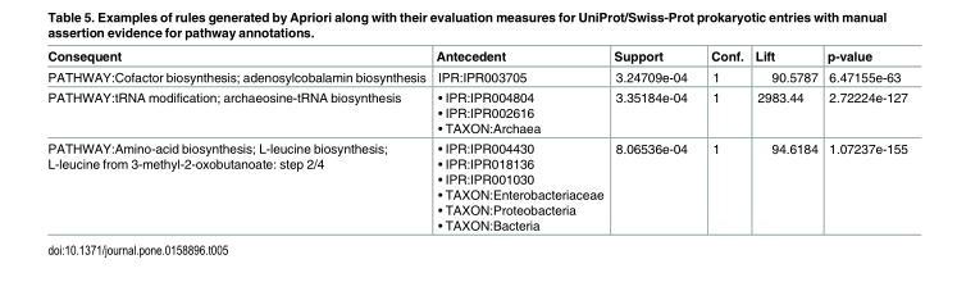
<table><thead><tr><td>Consequent</td><td>Antecedent</td><td>Support</td><td>Conf.</td><td>Lift</td><td>p-value</td></tr></thead><tbody><tr><td>PATHWAY:Cofactor biosynthesis; adenosylcobalamin biosynthesis</td><td>IPR:IPR003705</td><td>3.24709e-04</td><td>1</td><td>90.5787</td><td>6.47155e-63</td></tr><tr><td>PATHWAY:tRNA modification; archaeosine-tRNA biosynthesis</td><td>• IPR:IPR004804 • IPR:IPR002616 • TAXON:Archaea</td><td>3.35184e-04</td><td>1</td><td>2983.44</td><td>2.72224e-127</td></tr><tr><td>PATHWAY:Amino-acid biosynthesis; L-leucine biosynthesis; L-leucine from 3-methyl-2-oxobutanoate: step 2/4</td><td>• IPR:IPR004430 • IPR:IPR018136 • IPR:IPR001030 • TAXON:Enterobacteriaceae • TAXON:Proteobacteria • TAXON:Bacteria</td><td>8.06536e-04</td><td>1</td><td>94.6184</td><td>1.07237e-155</td></tr></tbody></table>